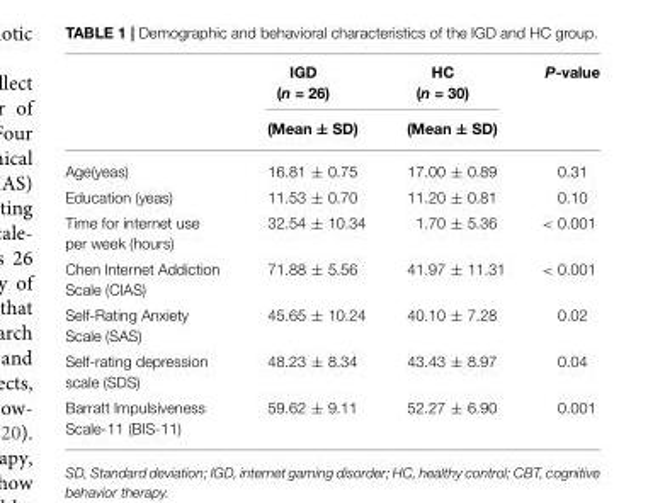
<table><thead><tr><td rowspan="2"></td><td rowspan="2">IGD (n = 26) (Mean ± SD)</td><td rowspan="2">HC (n = 30) (Mean ± SD)</td><td rowspan="2">P-value</td></tr><tr></tr></thead><tbody><tr><td>Age(yeas)</td><td>16.81 ± 0.75</td><td>17.00 ± 0.89</td><td>0.31</td></tr><tr><td>Education (yeas)</td><td>11.53 ± 0.70</td><td>11.20 ± 0.81</td><td>0.10</td></tr><tr><td>Time for internet use per week (hours)</td><td>32.54 ± 10.34</td><td>1.70 ± 5.36</td><td>&lt; 0.001</td></tr><tr><td>Chen Internet Addiction Scale (CIAS)</td><td>71.88 ± 5.56</td><td>41.97 ± 11.31</td><td>&lt; 0.001</td></tr><tr><td>Self-Rating Anxiety Scale (SAS)</td><td>45.65 ± 10.24</td><td>40.10 ± 7.28</td><td>0.02</td></tr><tr><td>Self-rating depression scale (SDS)</td><td>48.23 ± 8.34</td><td>43.43 ± 8.97</td><td>0.04</td></tr><tr><td>Barratt Impulsiveness Scale-11 (BIS-11)</td><td>59.62 ± 9.11</td><td>52.27 ± 6.90</td><td>0.001</td></tr></tbody></table>